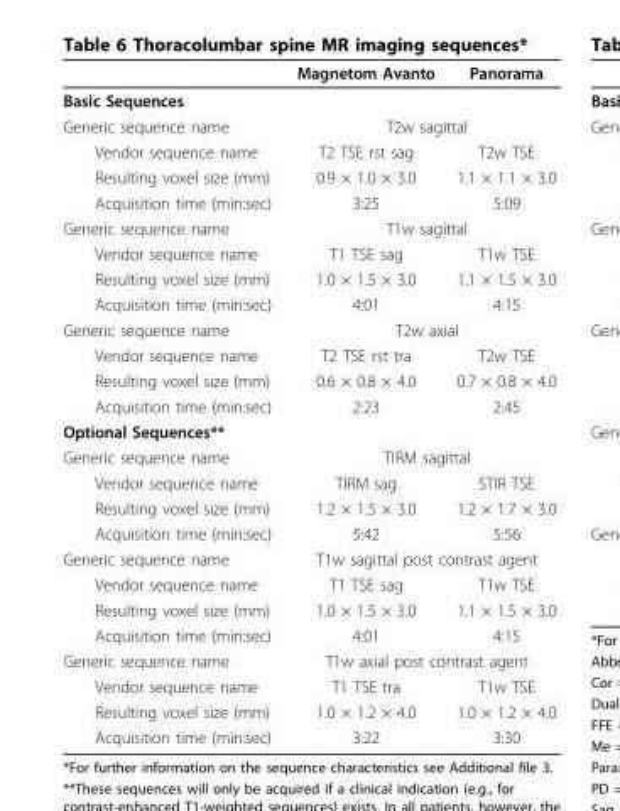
<table><thead><tr><td></td><td>Magnetom Avanto</td><td>Panorama</td></tr></thead><tbody><tr><td colspan="3">Basic Sequences</td></tr><tr><td>Generic sequence name</td><td colspan="2">T2w sagittal</td></tr><tr><td>Vendor sequence name</td><td>T2 TSE rst sag</td><td>T2w TSE</td></tr><tr><td>Resulting voxel size (mm)</td><td>0.9 × 1.0 × 3.0</td><td>1.1 × 1.1 × 3.0</td></tr><tr><td>Acquisition time (min:sec)</td><td>3:25</td><td>5:09</td></tr><tr><td>Generic sequence name</td><td colspan="2">T1w sagittal</td></tr><tr><td>Vendor sequence name</td><td>T1 TSE sag</td><td>T1w TSE</td></tr><tr><td>Resulting voxel size (mm)</td><td>1.0 × 1.5 × 3.0</td><td>1.1 × 1.5 × 3.0</td></tr><tr><td>Acquisition time (min:sec)</td><td>4:01</td><td>4:15</td></tr><tr><td>Generic sequence name</td><td colspan="2">T2w axial</td></tr><tr><td>Vendor sequence name</td><td>T2 TSE rst tra</td><td>T2w TSE</td></tr><tr><td>Resulting voxel size (mm)</td><td>0.6 × 0.8 × 4.0</td><td>0.7 × 0.8 × 4.0</td></tr><tr><td>Acquisition time (min:sec)</td><td>2:23</td><td>2:45</td></tr><tr><td colspan="3">Optional Sequences**</td></tr><tr><td>Generic sequence name</td><td colspan="2">TIRM sagittal</td></tr><tr><td>Vendor sequence name</td><td>TIRM sag</td><td>STIR TSE</td></tr><tr><td>Resulting voxel size (mm)</td><td>1.2 × 1.5 × 3.0</td><td>1.2 × 1.7 × 3.0</td></tr><tr><td>Acquisition time (min:sec)</td><td>5:42</td><td>5:56</td></tr><tr><td>Generic sequence name</td><td colspan="2">T1w sagittal post contrast agent</td></tr><tr><td>Vendor sequence name</td><td>T1 TSE sag</td><td>T1w TSE</td></tr><tr><td>Resulting voxel size (mm)</td><td>1.0 × 1.5 × 3.0</td><td>1.1 × 1.5 × 3.0</td></tr><tr><td>Acquisition time (min:sec)</td><td>4:01</td><td>4:15</td></tr><tr><td>Generic sequence name</td><td colspan="2">T1w axial post contrast agent</td></tr><tr><td>Vendor sequence name</td><td>T1 TSE tra</td><td>T1w TSE</td></tr><tr><td>Resulting voxel size (mm)</td><td>1.0 × 1.2 × 4.0</td><td>1.0 × 1.2 × 4.0</td></tr><tr><td>Acquisition time (min:sec)</td><td>3:22</td><td>3:30</td></tr></tbody></table>